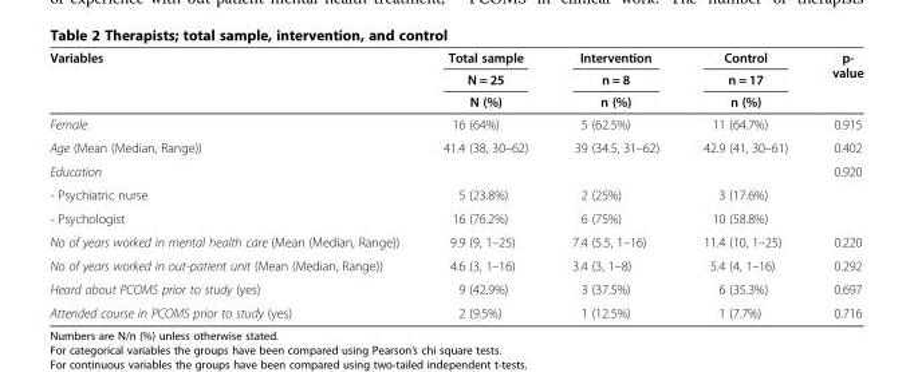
<table><thead><tr><td rowspan="3">Variables</td><td rowspan="3">Total sample N = 25 N (%)</td><td rowspan="3">Intervention n = 8 n (%)</td><td rowspan="3">Control n = 17 n (%)</td><td rowspan="3">p- value</td></tr><tr></tr><tr></tr></thead><tbody><tr><td>Female</td><td>16 (64%)</td><td>5 (62.5%)</td><td>11 (64.7%)</td><td>0.915</td></tr><tr><td>Age (Mean (Median, Range))</td><td>41.4 (38, 30–62)</td><td>39 (34.5, 31–62)</td><td>42.9 (41, 30–61)</td><td>0.402</td></tr><tr><td>Education</td><td></td><td></td><td></td><td>0.920</td></tr><tr><td>- Psychiatric nurse</td><td>5 (23.8%)</td><td>2 (25%)</td><td>3 (17.6%)</td><td></td></tr><tr><td>- Psychologist</td><td>16 (76.2%)</td><td>6 (75%)</td><td>10 (58.8%)</td><td></td></tr><tr><td>No of years worked in mental health care (Mean (Median, Range))</td><td>9.9 (9, 1–25)</td><td>7.4 (5.5, 1–16)</td><td>11.4 (10, 1–25)</td><td>0.220</td></tr><tr><td>No of years worked in out-patient unit (Mean (Median, Range))</td><td>4.6 (3, 1–16)</td><td>3.4 (3, 1–8)</td><td>5.4 (4, 1–16)</td><td>0.292</td></tr><tr><td>Heard about PCOMS prior to study (yes)</td><td>9 (42.9%)</td><td>3 (37.5%)</td><td>6 (35.3%)</td><td>0.697</td></tr><tr><td>Attended course in PCOMS prior to study (yes)</td><td>2 (9.5%)</td><td>1 (12.5%)</td><td>1 (7.7%)</td><td>0.716</td></tr></tbody></table>